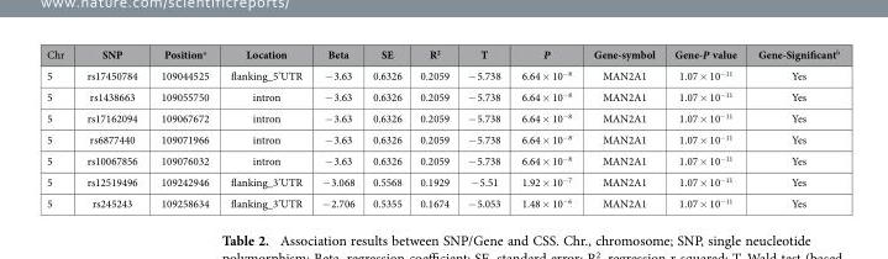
<table><thead><tr><td>Chr</td><td>SNP</td><td>Position<sup>a</sup></td><td>Location</td><td>Beta</td><td>SE</td><td>R<sup>2</sup></td><td>T</td><td>P</td><td>Gene-symbol</td><td>Gene-P value</td><td>Gene-Significant<sup>b</sup></td></tr></thead><tbody><tr><td>5</td><td>rs17450784</td><td>109044525</td><td>flanking_5’UTR</td><td>− 3.63</td><td>0.6326</td><td>0.2059</td><td>− 5.738</td><td>6.64 × 10<sup>−8</sup></td><td>MAN2A1</td><td>1.07 × 10<sup>−11</sup></td><td>Yes</td></tr><tr><td>5</td><td>rs1438663</td><td>109055750</td><td>intron</td><td>− 3.63</td><td>0.6326</td><td>0.2059</td><td>− 5.738</td><td>6.64 × 10<sup>−8</sup></td><td>MAN2A1</td><td>1.07 × 10<sup>−11</sup></td><td>Yes</td></tr><tr><td>5</td><td>rs17162094</td><td>109067672</td><td>intron</td><td>− 3.63</td><td>0.6326</td><td>0.2059</td><td>− 5.738</td><td>6.64 × 10<sup>−8</sup></td><td>MAN2A1</td><td>1.07 × 10<sup>−11</sup></td><td>Yes</td></tr><tr><td>5</td><td>rs6877440</td><td>109071966</td><td>intron</td><td>− 3.63</td><td>0.6326</td><td>0.2059</td><td>− 5.738</td><td>6.64 × 10<sup>−8</sup></td><td>MAN2A1</td><td>1.07 × 10<sup>−11</sup></td><td>Yes</td></tr><tr><td>5</td><td>rs10067856</td><td>109076032</td><td>intron</td><td>− 3.63</td><td>0.6326</td><td>0.2059</td><td>− 5.738</td><td>6.64 × 10<sup>−8</sup></td><td>MAN2A1</td><td>1.07 × 10<sup>−11</sup></td><td>Yes</td></tr><tr><td>5</td><td>rs12519496</td><td>109242946</td><td>flanking_3’UTR</td><td>− 3.068</td><td>0.5568</td><td>0.1929</td><td>− 5.51</td><td>1.92 × 10<sup>−7</sup></td><td>MAN2A1</td><td>1.07 × 10<sup>−11</sup></td><td>Yes</td></tr><tr><td>5</td><td>rs245243</td><td>109258634</td><td>flanking_3’UTR</td><td>− 2.706</td><td>0.5355</td><td>0.1674</td><td>− 5.053</td><td>1.48 × 10<sup>−6</sup></td><td>MAN2A1</td><td>1.07 × 10<sup>−11</sup></td><td>Yes</td></tr></tbody></table>